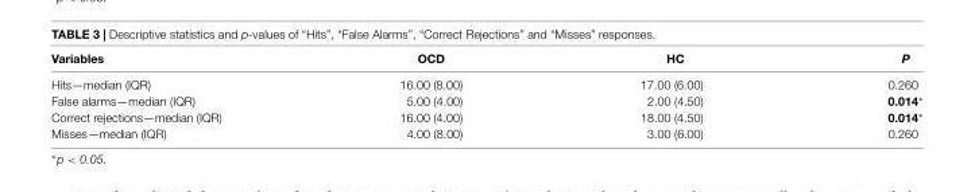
<table><thead><tr><td>Variables</td><td>OCD</td><td>HC</td><td>P</td></tr></thead><tbody><tr><td>Hits—median (IQR)</td><td>16.00 (8.00)</td><td>17.00 (6.00)</td><td>0.260</td></tr><tr><td>False alarms—median (IQR)</td><td>5.00 (4.00)</td><td>2.00 (4.50)</td><td>0.014∗</td></tr><tr><td>Correct rejections—median (IQR)</td><td>16.00 (4.00)</td><td>18.00 (4.50)</td><td>0.014∗</td></tr><tr><td>Misses—median (IQR)</td><td>4.00 (8.00)</td><td>3.00 (6.00)</td><td>0.260</td></tr></tbody></table>